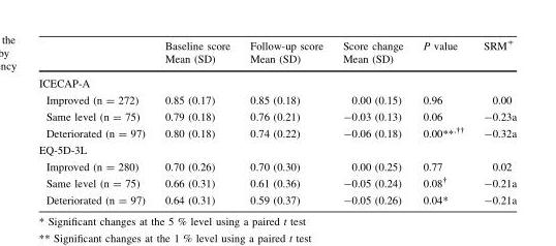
<table><thead><tr><td rowspan="2"></td><td rowspan="2">Baseline score Mean (SD)</td><td rowspan="2">Follow-up score Mean (SD)</td><td rowspan="2">Score change Mean (SD)</td><td rowspan="2">P value</td><td rowspan="2">SRM<sup>ǂ</sup></td></tr><tr></tr></thead><tbody><tr><td colspan="6">ICECAP-A</td></tr><tr><td>Improved (n = 272)</td><td>0.85 (0.17)</td><td>0.85 (0.18)</td><td>0.00 (0.15)</td><td>0.96</td><td>0.00</td></tr><tr><td>Same level (n = 75)</td><td>0.79 (0.18)</td><td>0.76 (0.21)</td><td>-0.03 (0.13)</td><td>0.06</td><td>-0.23a</td></tr><tr><td>Deteriorated (n = 97)</td><td>0.80 (0.18)</td><td>0.74 (0.22)</td><td>-0.06 (0.18)</td><td>0.00**<sup>,††</sup></td><td>-0.32a</td></tr><tr><td colspan="6">EQ-5D-3L</td></tr><tr><td>Improved (n = 280)</td><td>0.70 (0.26)</td><td>0.70 (0.30)</td><td>0.00 (0.25)</td><td>0.77</td><td>0.02</td></tr><tr><td>Same level (n = 75)</td><td>0.66 (0.31)</td><td>0.61 (0.36)</td><td>-0.05 (0.24)</td><td>0.08<sup>†</sup></td><td>-0.21a</td></tr><tr><td>Deteriorated (n = 97)</td><td>0.64 (0.31)</td><td>0.59 (0.37)</td><td>-0.05 (0.26)</td><td>0.04*</td><td>-0.21a</td></tr></tbody></table>